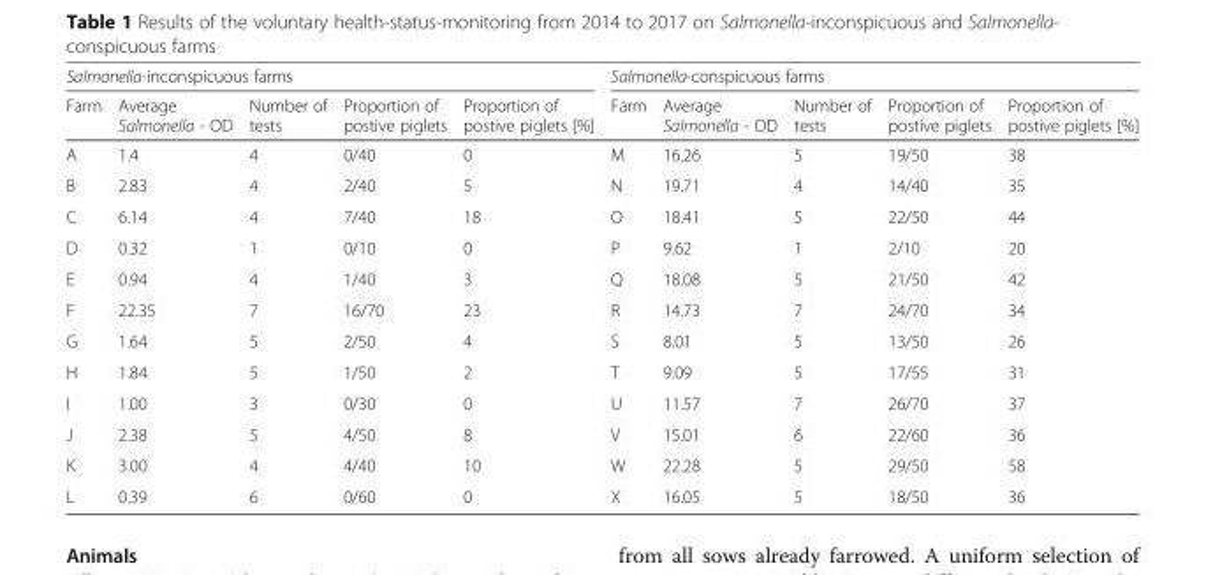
<table><thead><tr><td colspan="5">Salmonella-inconspicuous farms</td><td colspan="5">Salmonella-conspicuous farms</td></tr><tr><td>Farm</td><td>Average Salmonella - OD</td><td>Number of tests</td><td>Proportion of postive piglets</td><td>Proportion of postive piglets [%]</td><td>Farm</td><td>Average Salmonella - OD</td><td>Number of tests</td><td>Proportion of postive piglets</td><td>Proportion of postive piglets [%]</td></tr></thead><tbody><tr><td>A</td><td>1.4</td><td>4</td><td>0/40</td><td>0</td><td>M</td><td>16.26</td><td>5</td><td>19/50</td><td>38</td></tr><tr><td>B</td><td>2.83</td><td>4</td><td>2/40</td><td>5</td><td>N</td><td>19.71</td><td>4</td><td>14/40</td><td>35</td></tr><tr><td>C</td><td>6.14</td><td>4</td><td>7/40</td><td>18</td><td>O</td><td>18.41</td><td>5</td><td>22/50</td><td>44</td></tr><tr><td>D</td><td>0.32</td><td>1</td><td>0/10</td><td>0</td><td>P</td><td>9.62</td><td>1</td><td>2/10</td><td>20</td></tr><tr><td>E</td><td>0.94</td><td>4</td><td>1/40</td><td>3</td><td>Q</td><td>18.08</td><td>5</td><td>21/50</td><td>42</td></tr><tr><td>F</td><td>22.35</td><td>7</td><td>16/70</td><td>23</td><td>R</td><td>14.73</td><td>7</td><td>24/70</td><td>34</td></tr><tr><td>G</td><td>1.64</td><td>5</td><td>2/50</td><td>4</td><td>S</td><td>8.01</td><td>5</td><td>13/50</td><td>26</td></tr><tr><td>H</td><td>1.84</td><td>5</td><td>1/50</td><td>2</td><td>T</td><td>9.09</td><td>5</td><td>17/55</td><td>31</td></tr><tr><td>I</td><td>1.00</td><td>3</td><td>0/30</td><td>0</td><td>U</td><td>11.57</td><td>7</td><td>26/70</td><td>37</td></tr><tr><td>J</td><td>2.38</td><td>5</td><td>4/50</td><td>8</td><td>V</td><td>15.01</td><td>6</td><td>22/60</td><td>36</td></tr><tr><td>K</td><td>3.00</td><td>4</td><td>4/40</td><td>10</td><td>W</td><td>22.28</td><td>5</td><td>29/50</td><td>58</td></tr><tr><td>L</td><td>0.39</td><td>6</td><td>0/60</td><td>0</td><td>X</td><td>16.05</td><td>5</td><td>18/50</td><td>36</td></tr></tbody></table>